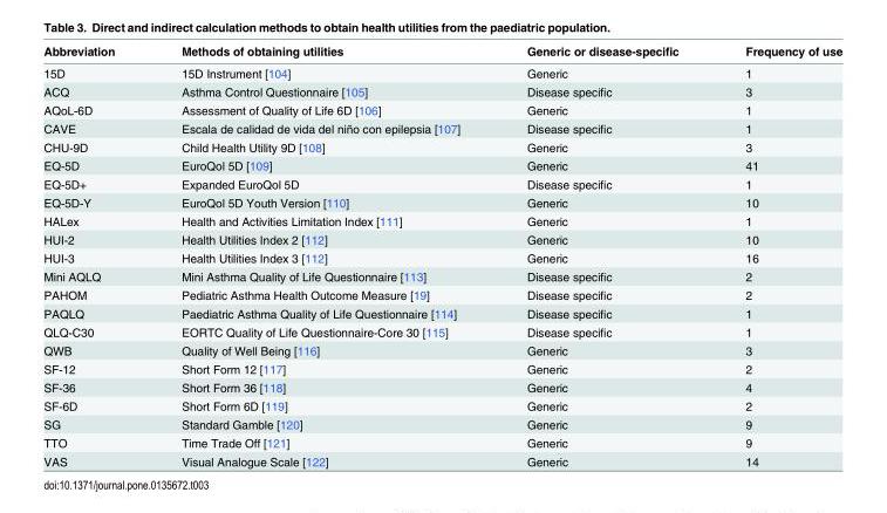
<table><thead><tr><td>Abbreviation</td><td>Methods of obtaining utilities</td><td>Generic or disease-specific</td><td>Frequency of use</td></tr></thead><tbody><tr><td>15D</td><td>15D Instrument [104]</td><td>Generic</td><td>1</td></tr><tr><td>ACQ</td><td>Asthma Control Questionnaire [105]</td><td>Disease specific</td><td>3</td></tr><tr><td>AQoL-6D</td><td>Assessment of Quality of Life 6D [106]</td><td>Generic</td><td>1</td></tr><tr><td>CAVE</td><td>Escala de calidad de vida del niño con epilepsia [107]</td><td>Disease specific</td><td>1</td></tr><tr><td>CHU-9D</td><td>Child Health Utility 9D [108]</td><td>Generic</td><td>3</td></tr><tr><td>EQ-5D</td><td>EuroQol 5D [109]</td><td>Generic</td><td>41</td></tr><tr><td>EQ-5D+</td><td>Expanded EuroQol 5D</td><td>Disease specific</td><td>1</td></tr><tr><td>EQ-5D-Y</td><td>EuroQol 5D Youth Version [110]</td><td>Generic</td><td>10</td></tr><tr><td>HALex</td><td>Health and Activities Limitation Index [111]</td><td>Generic</td><td>1</td></tr><tr><td>HUI-2</td><td>Health Utilities Index 2 [112]</td><td>Generic</td><td>10</td></tr><tr><td>HUI-3</td><td>Health Utilities Index 3 [112]</td><td>Generic</td><td>16</td></tr><tr><td>Mini AQLQ</td><td>Mini Asthma Quality of Life Questionnaire [113]</td><td>Disease specific</td><td>2</td></tr><tr><td>PAHOM</td><td>Pediatric Asthma Health Outcome Measure [19]</td><td>Disease specific</td><td>2</td></tr><tr><td>PAQLQ</td><td>Paediatric Asthma Quality of Life Questionnaire [114]</td><td>Disease specific</td><td>1</td></tr><tr><td>QLQ-C30</td><td>EORTC Quality of Life Questionnaire-Core 30 [115]</td><td>Disease specific</td><td>1</td></tr><tr><td>QWB</td><td>Quality of Well Being [116]</td><td>Generic</td><td>3</td></tr><tr><td>SF-12</td><td>Short Form 12 [117]</td><td>Generic</td><td>2</td></tr><tr><td>SF-36</td><td>Short Form 36 [118]</td><td>Generic</td><td>4</td></tr><tr><td>SF-6D</td><td>Short Form 6D [119]</td><td>Generic</td><td>2</td></tr><tr><td>SG</td><td>Standard Gamble [120]</td><td>Generic</td><td>9</td></tr><tr><td>TTO</td><td>Time Trade Off [121]</td><td>Generic</td><td>9</td></tr><tr><td>VAS</td><td>Visual Analogue Scale [122]</td><td>Generic</td><td>14</td></tr></tbody></table>